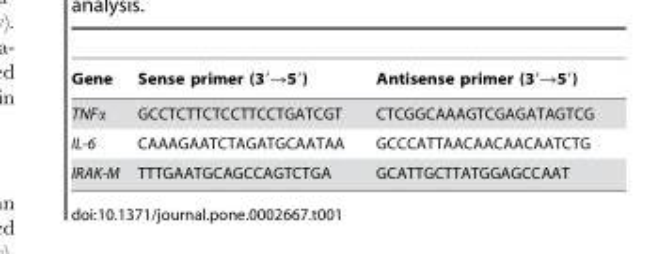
<table><thead><tr><td>Gene</td><td>Sense primer (3′→5′)</td><td>Antisense primer (3′→5′)</td></tr></thead><tbody><tr><td>TNFα</td><td>GCCTCTTCTCCTTCCTGATCGT</td><td>CTCGGCAAAGTCGAGATAGTCG</td></tr><tr><td>IL-6</td><td>CAAAGAATCTAGATGCAATAA</td><td>GCCCATTAACAACAACAATCTG</td></tr><tr><td>IRAK-M</td><td>TTTGAATGCAGCCAGTCTGA</td><td>GCATTGCTTATGGAGCCAAT</td></tr></tbody></table>